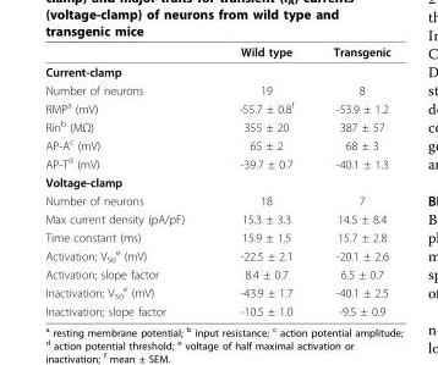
<table><thead><tr><td></td><td>Wild type</td><td>Transgenic</td></tr></thead><tbody><tr><td colspan="3">Current-clamp</td></tr><tr><td>Number of neurons</td><td>19</td><td>8</td></tr><tr><td>RMP<sup>a</sup> (mV)</td><td>-55.7 ± 0.8<sup>f</sup></td><td>-53.9 ± 1.2</td></tr><tr><td>Rin<sup>b</sup> (MΩ)</td><td>355 ± 20</td><td>387 ± 57</td></tr><tr><td>AP-A<sup>c</sup> (mV)</td><td>65 ± 2</td><td>68 ± 3</td></tr><tr><td>AP-T<sup>d</sup> (mV)</td><td>-39.7 ± 0.7</td><td>-40.1 ± 1.3</td></tr><tr><td colspan="3">Voltage-clamp</td></tr><tr><td>Number of neurons</td><td>18</td><td>7</td></tr><tr><td>Max current density (pA/pF)</td><td>15.3 ± 3.3</td><td>14.5 ± 8.4</td></tr><tr><td>Time constant (ms)</td><td>15.9 ± 1.5</td><td>15.7 ± 2.8</td></tr><tr><td>Activation; V<sub>50</sub> <sup>e</sup> (mV)</td><td>-22.5 ± 2.1</td><td>-20.1 ± 2.6</td></tr><tr><td>Activation; slope factor</td><td>8.4 ± 0.7</td><td>6.5 ± 0.7</td></tr><tr><td>Inactivation; V<sub>50</sub> <sup>e</sup> (mV)</td><td>-43.9 ± 1.7</td><td>-40.1 ± 2.5</td></tr><tr><td>Inactivation; slope factor</td><td>-10.5 ± 1.0</td><td>-9.5 ± 0.9</td></tr></tbody></table>